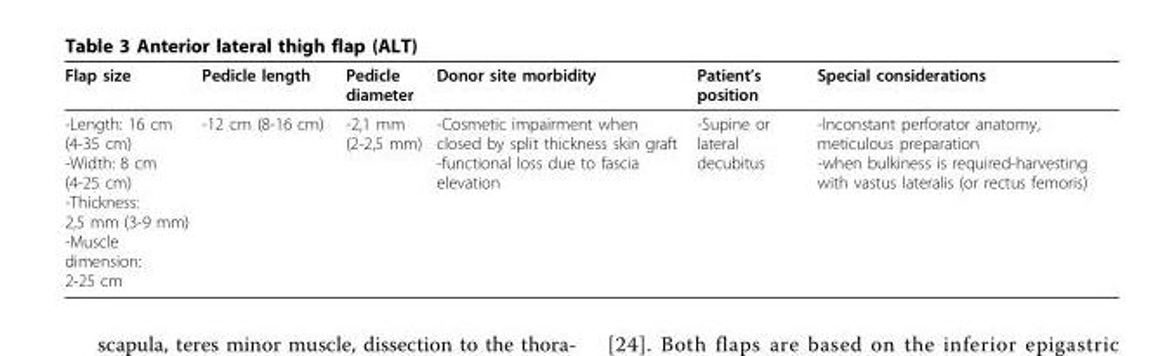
<table><thead><tr><td>Flap size</td><td>Pedicle length</td><td>Pedicle diameter</td><td>Donor site morbidity</td><td>Patient’s position</td><td>Special considerations</td></tr></thead><tbody><tr><td>-Length: 16 cm (4-35 cm) -Width: 8 cm (4-25 cm) -Thickness: 2,5 mm (3-9 mm) -Muscle dimension: 2-25 cm</td><td>-12 cm (8-16 cm)</td><td>-2,1 mm (2-2,5 mm)</td><td>-Cosmetic impairment when closed by split thickness skin graft -functional loss due to fascia elevation</td><td>-Supine or lateral decubitus</td><td>-Inconstant perforator anatomy, meticulous preparation -when bulkiness is required-harvesting with vastus lateralis (or rectus femoris)</td></tr></tbody></table>